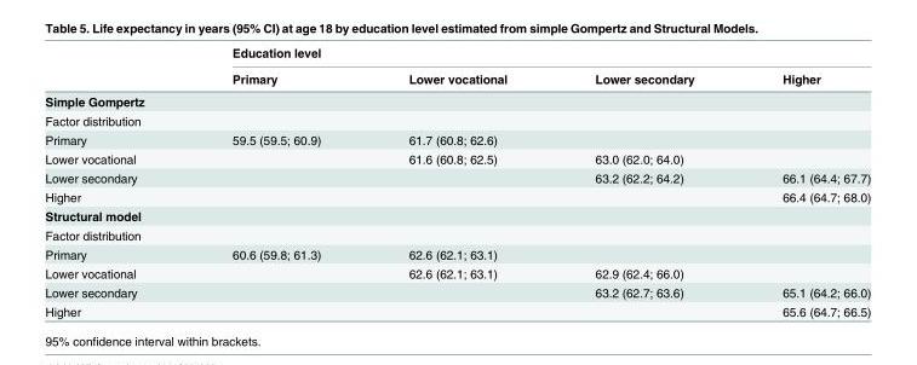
<table><thead><tr><td rowspan="2"></td><td colspan="4">Education level</td></tr><tr><td>Primary</td><td>Lower vocational</td><td>Lower secondary</td><td>Higher</td></tr></thead><tbody><tr><td colspan="5">Simple Gompertz</td></tr><tr><td colspan="5">Factor distribution</td></tr><tr><td>Primary</td><td>59.5 (59.5; 60.9)</td><td>61.7 (60.8; 62.6)</td><td></td><td></td></tr><tr><td>Lower vocational</td><td></td><td>61.6 (60.8; 62.5)</td><td>63.0 (62.0; 64.0)</td><td></td></tr><tr><td>Lower secondary</td><td></td><td></td><td>63.2 (62.2; 64.2)</td><td>66.1 (64.4; 67.7)</td></tr><tr><td>Higher</td><td></td><td></td><td></td><td>66.4 (64.7; 68.0)</td></tr><tr><td colspan="5">Structural model</td></tr><tr><td colspan="5">Factor distribution</td></tr><tr><td>Primary</td><td>60.6 (59.8; 61.3)</td><td>62.6 (62.1; 63.1)</td><td></td><td></td></tr><tr><td>Lower vocational</td><td></td><td>62.6 (62.1; 63.1)</td><td>62.9 (62.4; 66.0)</td><td></td></tr><tr><td>Lower secondary</td><td></td><td></td><td>63.2 (62.7; 63.6)</td><td>65.1 (64.2; 66.0)</td></tr><tr><td>Higher</td><td></td><td></td><td></td><td>65.6 (64.7; 66.5)</td></tr></tbody></table>